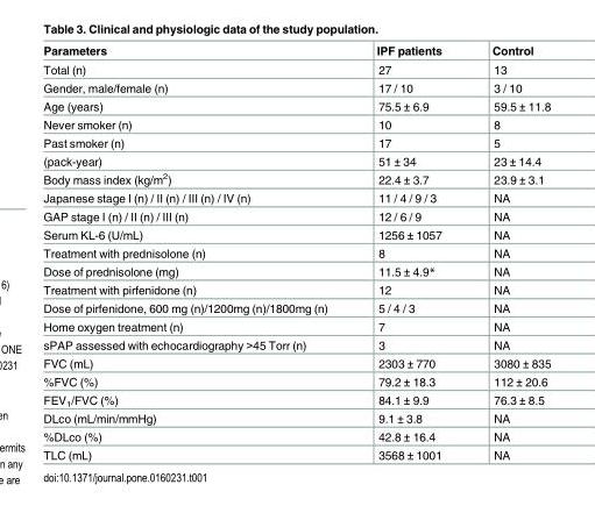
<table><thead><tr><td>Parameters</td><td>IPF patients</td><td>Control</td></tr></thead><tbody><tr><td>Total (n)</td><td>27</td><td>13</td></tr><tr><td>Gender, male/female (n)</td><td>17 / 10</td><td>3 / 10</td></tr><tr><td>Age (years)</td><td>75.5 ± 6.9</td><td>59.5 ± 11.8</td></tr><tr><td>Never smoker (n)</td><td>10</td><td>8</td></tr><tr><td>Past smoker (n)</td><td>17</td><td>5</td></tr><tr><td>(pack-year)</td><td>51 ± 34</td><td>23 ± 14.4</td></tr><tr><td>Body mass index (kg/m<sup>2</sup>)</td><td>22.4 ± 3.7</td><td>23.9 ± 3.1</td></tr><tr><td>Japanese stage I (n) / II (n) / III (n) / IV (n)</td><td>11 / 4 / 9 / 3</td><td>NA</td></tr><tr><td>GAP stage I (n) / II (n) / III (n)</td><td>12 / 6 / 9</td><td>NA</td></tr><tr><td>Serum KL-6 (U/mL)</td><td>1256 ± 1057</td><td>NA</td></tr><tr><td>Treatment with prednisolone (n)</td><td>8</td><td>NA</td></tr><tr><td>Dose of prednisolone (mg)</td><td>11.5 ± 4.9*</td><td>NA</td></tr><tr><td>Treatment with pirfenidone (n)</td><td>12</td><td>NA</td></tr><tr><td>Dose of pirfenidone, 600 mg (n)/1200mg (n)/1800mg (n)</td><td>5 / 4 / 3</td><td>NA</td></tr><tr><td>Home oxygen treatment (n)</td><td>7</td><td>NA</td></tr><tr><td>sPAP assessed with echocardiography &gt;45 Torr (n)</td><td>3</td><td>NA</td></tr><tr><td>FVC (mL)</td><td>2303 ± 770</td><td>3080 ± 835</td></tr><tr><td>%FVC (%)</td><td>79.2 ± 18.3</td><td>112 ± 20.6</td></tr><tr><td>FEV<sub>1</sub>/FVC (%)</td><td>84.1 ± 9.9</td><td>76.3 ± 8.5</td></tr><tr><td>DLco (mL/min/mmHg)</td><td>9.1 ± 3.8</td><td>NA</td></tr><tr><td>%DLco (%)</td><td>42.8 ± 16.4</td><td>NA</td></tr><tr><td>TLC (mL)</td><td>3568 ± 1001</td><td>NA</td></tr></tbody></table>